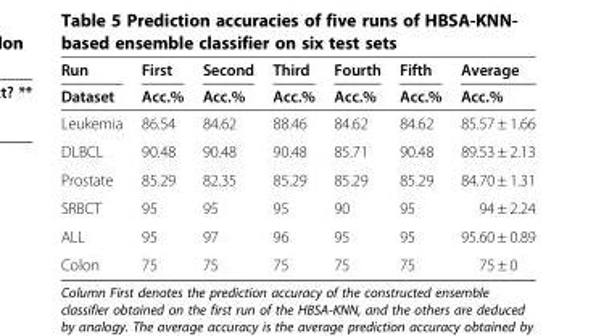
<table><thead><tr><td rowspan="2">Run Dataset</td><td rowspan="2">First Acc.%</td><td rowspan="2">Second Acc.%</td><td rowspan="2">Third Acc.%</td><td rowspan="2">Fourth Acc.%</td><td rowspan="2">Fifth Acc.%</td><td rowspan="2">Average Acc.%</td></tr><tr></tr></thead><tbody><tr><td>Leukemia</td><td>86.54</td><td>84.62</td><td>88.46</td><td>84.62</td><td>84.62</td><td>85.57 ± 1.66</td></tr><tr><td>DLBCL</td><td>90.48</td><td>90.48</td><td>90.48</td><td>85.71</td><td>90.48</td><td>89.53 ± 2.13</td></tr><tr><td>Prostate</td><td>85.29</td><td>82.35</td><td>85.29</td><td>85.29</td><td>85.29</td><td>84.70 ± 1.31</td></tr><tr><td>SRBCT</td><td>95</td><td>95</td><td>95</td><td>90</td><td>95</td><td>94 ± 2.24</td></tr><tr><td>ALL</td><td>95</td><td>97</td><td>96</td><td>95</td><td>95</td><td>95.60 ± 0.89</td></tr><tr><td>Colon</td><td>75</td><td>75</td><td>75</td><td>75</td><td>75</td><td>75 ± 0</td></tr></tbody></table>